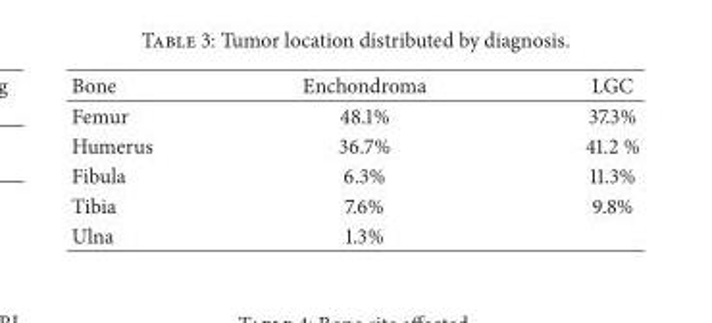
<table><thead><tr><td>Bone</td><td>Enchondroma</td><td>LGC</td></tr></thead><tbody><tr><td>Femur</td><td>48.1%</td><td>37.3%</td></tr><tr><td>Humerus</td><td>36.7%</td><td>41.2 %</td></tr><tr><td>Fibula</td><td>6.3%</td><td>11.3%</td></tr><tr><td>Tibia</td><td>7.6%</td><td>9.8%</td></tr><tr><td>Ulna</td><td>1.3%</td><td></td></tr></tbody></table>